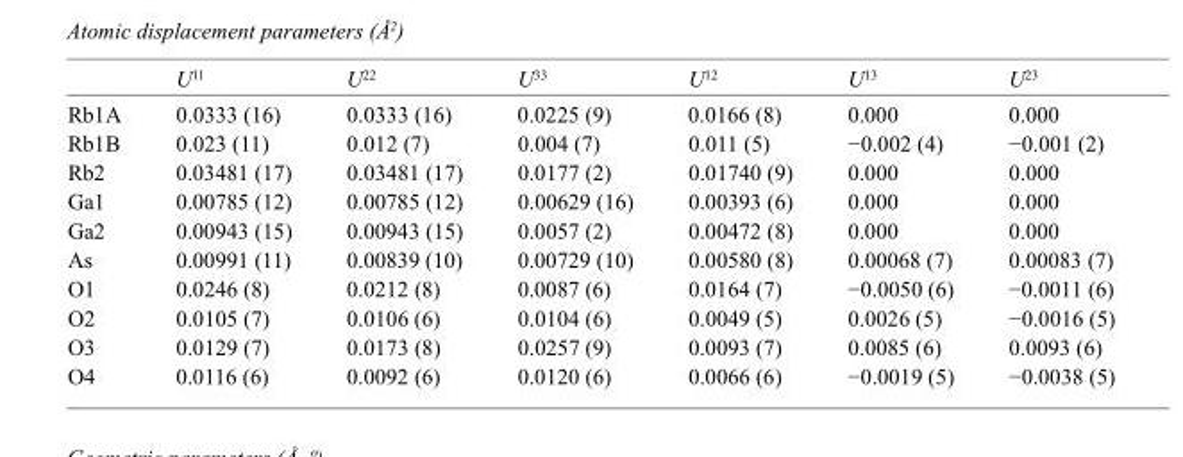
<table><thead><tr><td></td><td>U<sup>11</sup></td><td>U<sup>22</sup></td><td>U<sup>33</sup></td><td>U<sup>12</sup></td><td>U<sup>13</sup></td><td>U<sup>23</sup></td></tr></thead><tbody><tr><td>Rb1A</td><td>0.0333 (16)</td><td>0.0333 (16)</td><td>0.0225 (9)</td><td>0.0166 (8)</td><td>0.000</td><td>0.000</td></tr><tr><td>Rb1B</td><td>0.023 (11)</td><td>0.012 (7)</td><td>0.004 (7)</td><td>0.011 (5)</td><td>−0.002 (4)</td><td>−0.001 (2)</td></tr><tr><td>Rb2</td><td>0.03481 (17)</td><td>0.03481 (17)</td><td>0.0177 (2)</td><td>0.01740 (9)</td><td>0.000</td><td>0.000</td></tr><tr><td>Ga1</td><td>0.00785 (12)</td><td>0.00785 (12)</td><td>0.00629 (16)</td><td>0.00393 (6)</td><td>0.000</td><td>0.000</td></tr><tr><td>Ga2</td><td>0.00943 (15)</td><td>0.00943 (15)</td><td>0.0057 (2)</td><td>0.00472 (8)</td><td>0.000</td><td>0.000</td></tr><tr><td>As</td><td>0.00991 (11)</td><td>0.00839 (10)</td><td>0.00729 (10)</td><td>0.00580 (8)</td><td>0.00068 (7)</td><td>0.00083 (7)</td></tr><tr><td>O1</td><td>0.0246 (8)</td><td>0.0212 (8)</td><td>0.0087 (6)</td><td>0.0164 (7)</td><td>−0.0050 (6)</td><td>−0.0011 (6)</td></tr><tr><td>O2</td><td>0.0105 (7)</td><td>0.0106 (6)</td><td>0.0104 (6)</td><td>0.0049 (5)</td><td>0.0026 (5)</td><td>−0.0016 (5)</td></tr><tr><td>O3</td><td>0.0129 (7)</td><td>0.0173 (8)</td><td>0.0257 (9)</td><td>0.0093 (7)</td><td>0.0085 (6)</td><td>0.0093 (6)</td></tr><tr><td>O4</td><td>0.0116 (6)</td><td>0.0092 (6)</td><td>0.0120 (6)</td><td>0.0066 (6)</td><td>−0.0019 (5)</td><td>−0.0038 (5)</td></tr></tbody></table>